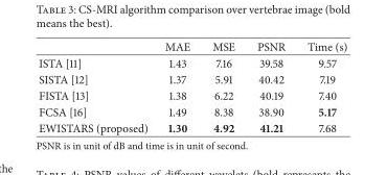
<table><thead><tr><td></td><td>MAE</td><td>MSE</td><td>PSNR</td><td>Time (s)</td></tr></thead><tbody><tr><td>ISTA [11]</td><td>1.43</td><td>7.16</td><td>39.58</td><td>9.57</td></tr><tr><td>SISTA [12]</td><td>1.37</td><td>5.91</td><td>40.42</td><td>7.19</td></tr><tr><td>FISTA [13]</td><td>1.38</td><td>6.22</td><td>40.19</td><td>7.40</td></tr><tr><td>FCSA [16]</td><td>1.49</td><td>8.38</td><td>38.90</td><td>5.17</td></tr><tr><td>EWISTARS (proposed)</td><td>1.30</td><td>4.92</td><td>41.21</td><td>7.68</td></tr></tbody></table>